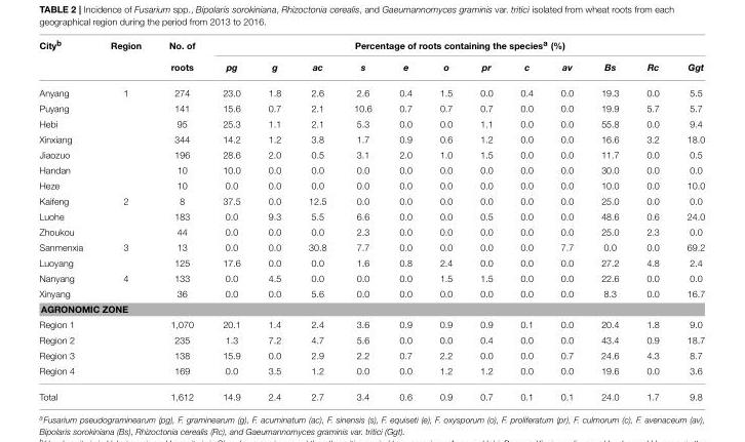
<table><thead><tr><td rowspan="2">City<sup>b</sup></td><td rowspan="2">Region</td><td rowspan="2">No. of roots</td><td colspan="12">Percentage of roots containing the species<sup>a</sup> (%)</td></tr><tr><td>pg</td><td>g</td><td>ac</td><td>s</td><td>e</td><td>o</td><td>pr</td><td>c</td><td>av</td><td>Bs</td><td>Rc</td><td>Ggt</td></tr></thead><tbody><tr><td>Anyang</td><td>1</td><td>274</td><td>23.0</td><td>1.8</td><td>2.6</td><td>2.6</td><td>0.4</td><td>1.5</td><td>0.0</td><td>0.4</td><td>0.0</td><td>19.3</td><td>0.0</td><td>5.5</td></tr><tr><td>Puyang</td><td></td><td>141</td><td>15.6</td><td>0.7</td><td>2.1</td><td>10.6</td><td>0.7</td><td>0.7</td><td>0.7</td><td>0.0</td><td>0.0</td><td>19.9</td><td>5.7</td><td>5.7</td></tr><tr><td>Hebi</td><td></td><td>95</td><td>25.3</td><td>1.1</td><td>2.1</td><td>5.3</td><td>0.0</td><td>0.0</td><td>1.1</td><td>0.0</td><td>0.0</td><td>55.8</td><td>0.0</td><td>9.4</td></tr><tr><td>Xinxiang</td><td></td><td>344</td><td>14.2</td><td>1.2</td><td>3.8</td><td>1.7</td><td>0.9</td><td>0.6</td><td>1.2</td><td>0.0</td><td>0.0</td><td>16.6</td><td>3.2</td><td>18.0</td></tr><tr><td>Jiaozuo</td><td></td><td>196</td><td>28.6</td><td>2.0</td><td>0.5</td><td>3.1</td><td>2.0</td><td>1.0</td><td>1.5</td><td>0.0</td><td>0.0</td><td>11.7</td><td>0.0</td><td>0.5</td></tr><tr><td>Handan</td><td></td><td>10</td><td>10.0</td><td>0.0</td><td>0.0</td><td>0.0</td><td>0.0</td><td>0.0</td><td>0.0</td><td>0.0</td><td>0.0</td><td>30.0</td><td>0.0</td><td>0.0</td></tr><tr><td>Heze</td><td></td><td>10</td><td>0.0</td><td>0.0</td><td>0.0</td><td>0.0</td><td>0.0</td><td>0.0</td><td>0.0</td><td>0.0</td><td>0.0</td><td>10.0</td><td>0.0</td><td>10.0</td></tr><tr><td>Kaifeng</td><td>2</td><td>8</td><td>37.5</td><td>0.0</td><td>12.5</td><td>0.0</td><td>0.0</td><td>0.0</td><td>0.0</td><td>0.0</td><td>0.0</td><td>25.0</td><td>0.0</td><td>0.0</td></tr><tr><td>Luohe</td><td></td><td>183</td><td>0.0</td><td>9.3</td><td>5.5</td><td>6.6</td><td>0.0</td><td>0.0</td><td>0.5</td><td>0.0</td><td>0.0</td><td>48.6</td><td>0.6</td><td>24.0</td></tr><tr><td>Zhoukou</td><td></td><td>44</td><td>0.0</td><td>0.0</td><td>0.0</td><td>2.3</td><td>0.0</td><td>0.0</td><td>0.0</td><td>0.0</td><td>0.0</td><td>25.0</td><td>2.3</td><td>0.0</td></tr><tr><td>Sanmenxia</td><td>3</td><td>13</td><td>0.0</td><td>0.0</td><td>30.8</td><td>7.7</td><td>0.0</td><td>0.0</td><td>0.0</td><td>0.0</td><td>7.7</td><td>0.0</td><td>0.0</td><td>69.2</td></tr><tr><td>Luoyang</td><td></td><td>125</td><td>17.6</td><td>0.0</td><td>0.0</td><td>1.6</td><td>0.8</td><td>2.4</td><td>0.0</td><td>0.0</td><td>0.0</td><td>27.2</td><td>4.8</td><td>2.4</td></tr><tr><td>Nanyang</td><td>4</td><td>133</td><td>0.0</td><td>4.5</td><td>0.0</td><td>0.0</td><td>0.0</td><td>1.5</td><td>1.5</td><td>0.0</td><td>0.0</td><td>22.6</td><td>0.0</td><td>0.0</td></tr><tr><td>Xinyang</td><td></td><td>36</td><td>0.0</td><td>0.0</td><td>5.6</td><td>0.0</td><td>0.0</td><td>0.0</td><td>0.0</td><td>0.0</td><td>0.0</td><td>8.3</td><td>0.0</td><td>16.7</td></tr><tr><td colspan="15">AGRONOMIC ZONE</td></tr><tr><td>Region 1</td><td></td><td>1,070</td><td>20.1</td><td>1.4</td><td>2.4</td><td>3.6</td><td>0.9</td><td>0.9</td><td>0.9</td><td>0.1</td><td>0.0</td><td>20.4</td><td>1.8</td><td>9.0</td></tr><tr><td>Region 2</td><td></td><td>235</td><td>1.3</td><td>7.2</td><td>4.7</td><td>5.6</td><td>0.0</td><td>0.0</td><td>0.4</td><td>0.0</td><td>0.0</td><td>43.4</td><td>0.9</td><td>18.7</td></tr><tr><td>Region 3</td><td></td><td>138</td><td>15.9</td><td>0.0</td><td>2.9</td><td>2.2</td><td>0.7</td><td>2.2</td><td>0.0</td><td>0.0</td><td>0.7</td><td>24.6</td><td>4.3</td><td>8.7</td></tr><tr><td>Region 4</td><td></td><td>169</td><td>0.0</td><td>3.5</td><td>1.2</td><td>0.0</td><td>0.0</td><td>1.2</td><td>1.2</td><td>0.0</td><td>0.0</td><td>19.6</td><td>0.0</td><td>3.6</td></tr><tr><td>Total</td><td></td><td>1,612</td><td>14.9</td><td>2.4</td><td>2.7</td><td>3.4</td><td>0.6</td><td>0.9</td><td>0.7</td><td>0.1</td><td>0.1</td><td>24.0</td><td>1.7</td><td>9.8</td></tr></tbody></table>